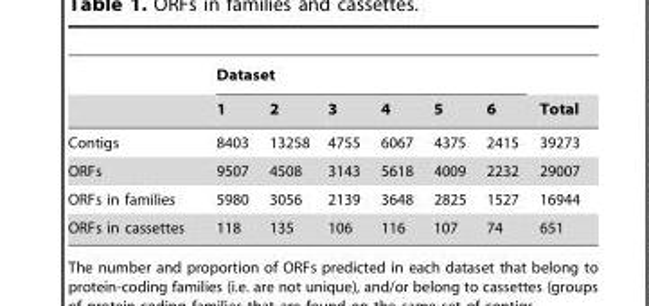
<table><thead><tr><td rowspan="2"></td><td colspan="6">Dataset</td><td rowspan="2">Total</td></tr><tr><td>1</td><td>2</td><td>3</td><td>4</td><td>5</td><td>6</td></tr></thead><tbody><tr><td>Contigs</td><td>8403</td><td>13258</td><td>4755</td><td>6067</td><td>4375</td><td>2415</td><td>39273</td></tr><tr><td>ORFs</td><td>9507</td><td>4508</td><td>3143</td><td>5618</td><td>4009</td><td>2232</td><td>29007</td></tr><tr><td>ORFs in families</td><td>5980</td><td>3056</td><td>2139</td><td>3648</td><td>2825</td><td>1527</td><td>16944</td></tr><tr><td>ORFs in cassettes</td><td>118</td><td>135</td><td>106</td><td>116</td><td>107</td><td>74</td><td>651</td></tr></tbody></table>